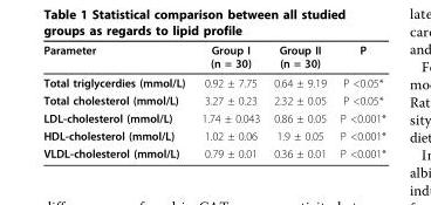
<table><thead><tr><td>Parameter</td><td>Group I (n = 30)</td><td>Group II (n = 30)</td><td>P</td></tr></thead><tbody><tr><td>Total triglycerdies (mmol/L)</td><td>0.92 ± 7.75</td><td>0.64 ± 9.19</td><td>P &lt;0.05*</td></tr><tr><td>Total cholesterol (mmol/L)</td><td>3.27 ± 0.23</td><td>2.32 ± 0.05</td><td>P &lt;0.05*</td></tr><tr><td>LDL-cholesterol (mmol/L)</td><td>1.74 ± 0.043</td><td>0.86 ± 0.05</td><td>P &lt;0.001*</td></tr><tr><td>HDL-cholesterol (mmol/L)</td><td>1.02 ± 0.06</td><td>1.9 ± 0.05</td><td>P &lt;0.001*</td></tr><tr><td>VLDL-cholesterol (mmol/L)</td><td>0.79 ± 0.01</td><td>0.36 ± 0.01</td><td>P &lt;0.001*</td></tr></tbody></table>